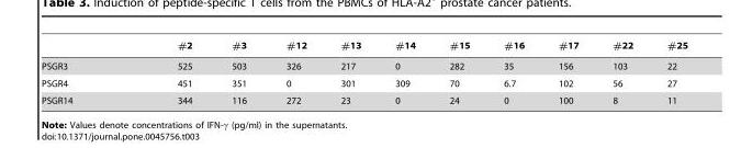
<table><thead><tr><td></td><td>#2</td><td>#3</td><td>#12</td><td>#13</td><td>#14</td><td>#15</td><td>#16</td><td>#17</td><td>#22</td><td>#25</td></tr></thead><tbody><tr><td>PSGR3</td><td>525</td><td>503</td><td>326</td><td>217</td><td>0</td><td>282</td><td>35</td><td>156</td><td>103</td><td>22</td></tr><tr><td>PSGR4</td><td>451</td><td>351</td><td>0</td><td>301</td><td>309</td><td>70</td><td>6.7</td><td>102</td><td>56</td><td>27</td></tr><tr><td>PSGR14</td><td>344</td><td>116</td><td>272</td><td>23</td><td>0</td><td>24</td><td>0</td><td>100</td><td>8</td><td>11</td></tr></tbody></table>